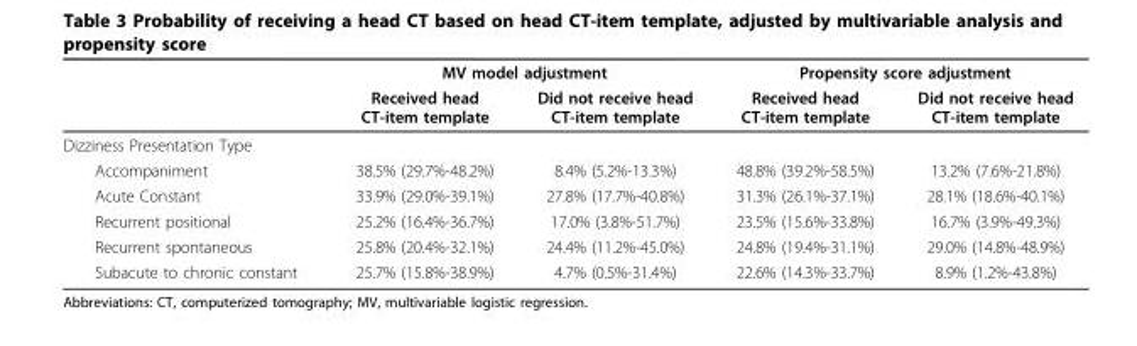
<table><thead><tr><td rowspan="2"></td><td colspan="2">MV model adjustment</td><td colspan="2">Propensity score adjustment</td></tr><tr><td>Received head CT-item template</td><td>Did not receive head CT-item template</td><td>Received head CT-item template</td><td>Did not receive head CT-item template</td></tr></thead><tbody><tr><td colspan="5">Dizziness Presentation Type</td></tr><tr><td>Accompaniment</td><td>38.5% (29.7%-48.2%)</td><td>8.4% (5.2%-13.3%)</td><td>48.8% (39.2%-58.5%)</td><td>13.2% (7.6%-21.8%)</td></tr><tr><td>Acute Constant</td><td>33.9% (29.0%-39.1%)</td><td>27.8% (17.7%-40.8%)</td><td>31.3% (26.1%-37.1%)</td><td>28.1% (18.6%-40.1%)</td></tr><tr><td>Recurrent positional</td><td>25.2% (16.4%-36.7%)</td><td>17.0% (3.8%-51.7%)</td><td>23.5% (15.6%-33.8%)</td><td>16.7% (3.9%-49.3%)</td></tr><tr><td>Recurrent spontaneous</td><td>25.8% (20.4%-32.1%)</td><td>24.4% (11.2%-45.0%)</td><td>24.8% (19.4%-31.1%)</td><td>29.0% (14.8%-48.9%)</td></tr><tr><td>Subacute to chronic constant</td><td>25.7% (15.8%-38.9%)</td><td>4.7% (0.5%-31.4%)</td><td>22.6% (14.3%-33.7%)</td><td>8.9% (1.2%-43.8%)</td></tr></tbody></table>